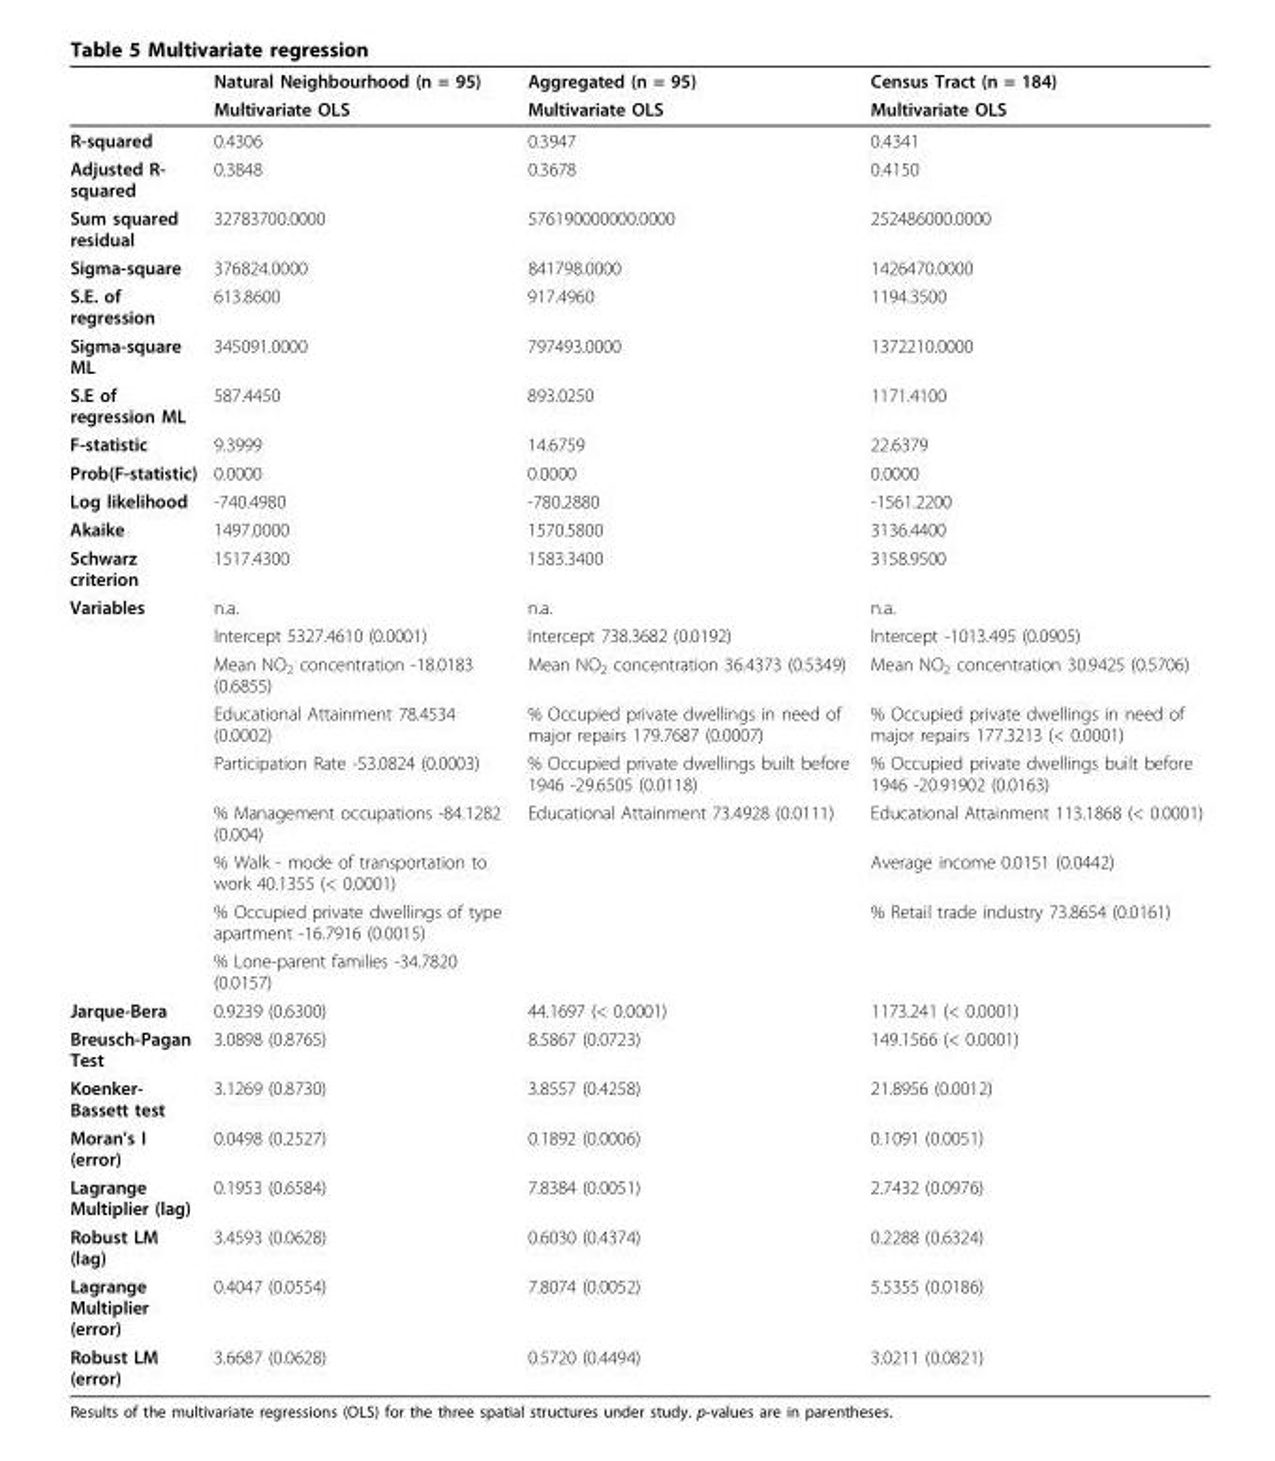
<table><thead><tr><td rowspan="2"></td><td rowspan="2">Natural Neighbourhood (n = 95) Multivariate OLS</td><td rowspan="2">Aggregated (n = 95) Multivariate OLS</td><td rowspan="2">Census Tract (n = 184) Multivariate OLS</td></tr><tr></tr></thead><tbody><tr><td>R-squared</td><td>0.4306</td><td>0.3947</td><td>0.4341</td></tr><tr><td>Adjusted R- squared</td><td>0.3848</td><td>0.3678</td><td>0.4150</td></tr><tr><td>Sum squared residual</td><td>32783700.0000</td><td>576190000000.0000</td><td>252486000.0000</td></tr><tr><td>Sigma-square</td><td>376824.0000</td><td>841798.0000</td><td>1426470.0000</td></tr><tr><td>S.E. of regression</td><td>613.8600</td><td>917.4960</td><td>1194.3500</td></tr><tr><td>Sigma-square ML</td><td>345091.0000</td><td>797493.0000</td><td>1372210.0000</td></tr><tr><td>S.E of regression ML</td><td>587.4450</td><td>893.0250</td><td>1171.4100</td></tr><tr><td>F-statistic</td><td>9.3999</td><td>14.6759</td><td>22.6379</td></tr><tr><td>Prob(F-statistic)</td><td>0.0000</td><td>0.0000</td><td>0.0000</td></tr><tr><td>Log likelihood</td><td>-740.4980</td><td>-780.2880</td><td>-1561.2200</td></tr><tr><td>Akaike</td><td>1497.0000</td><td>1570.5800</td><td>3136.4400</td></tr><tr><td>Schwarz criterion</td><td>1517.4300</td><td>1583.3400</td><td>3158.9500</td></tr><tr><td rowspan="9">Variables</td><td>n.a.</td><td>n.a.</td><td>n.a.</td></tr><tr><td>Intercept 5327.4610 (0.0001)</td><td>Intercept 738.3682 (0.0192)</td><td>Intercept -1013.495 (0.0905)</td></tr><tr><td>Mean NO<sub>2</sub> concentration -18.0183 (0.6855)</td><td>Mean NO<sub>2</sub> concentration 36.4373 (0.5349)</td><td>Mean NO<sub>2</sub> concentration 30.9425 (0.5706)</td></tr><tr><td>Educational Attainment 78.4534 (0.0002)</td><td>% Occupied private dwellings in need of major repairs 179.7687 (0.0007)</td><td>% Occupied private dwellings in need of major repairs 177.3213 (&lt; 0.0001)</td></tr><tr><td>Participation Rate -53.0824 (0.0003)</td><td>% Occupied private dwellings built before 1946 -29.6505 (0.0118)</td><td>% Occupied private dwellings built before 1946 -20.91902 (0.0163)</td></tr><tr><td>% Management occupations -84.1282 (0.004)</td><td>Educational Attainment 73.4928 (0.0111)</td><td>Educational Attainment 113.1868 (&lt; 0.0001)</td></tr><tr><td>% Walk - mode of transportation to work 40.1355 (&lt; 0.0001)</td><td></td><td>Average income 0.0151 (0.0442)</td></tr><tr><td>% Occupied private dwellings of type apartment -16.7916 (0.0015)</td><td></td><td>% Retail trade industry 73.8654 (0.0161)</td></tr><tr><td>% Lone-parent families -34.7820 (0.0157)</td><td></td><td></td></tr><tr><td>Jarque-Bera</td><td>0.9239 (0.6300)</td><td>44.1697 (&lt; 0.0001)</td><td>1173.241 (&lt; 0.0001)</td></tr><tr><td>Breusch-Pagan Test</td><td>3.0898 (0.8765)</td><td>8.5867 (0.0723)</td><td>149.1566 (&lt; 0.0001)</td></tr><tr><td>Koenker- Bassett test</td><td>3.1269 (0.8730)</td><td>3.8557 (0.4258)</td><td>21.8956 (0.0012)</td></tr><tr><td>Moran’s I (error)</td><td>0.0498 (0.2527)</td><td>0.1892 (0.0006)</td><td>0.1091 (0.0051)</td></tr><tr><td>Lagrange Multiplier (lag)</td><td>0.1953 (0.6584)</td><td>7.8384 (0.0051)</td><td>2.7432 (0.0976)</td></tr><tr><td>Robust LM (lag)</td><td>3.4593 (0.0628)</td><td>0.6030 (0.4374)</td><td>0.2288 (0.6324)</td></tr><tr><td>Lagrange Multiplier (error)</td><td>0.4047 (0.0554)</td><td>7.8074 (0.0052)</td><td>5.5355 (0.0186)</td></tr><tr><td>Robust LM (error)</td><td>3.6687 (0.0628)</td><td>0.5720 (0.4494)</td><td>3.0211 (0.0821)</td></tr></tbody></table>